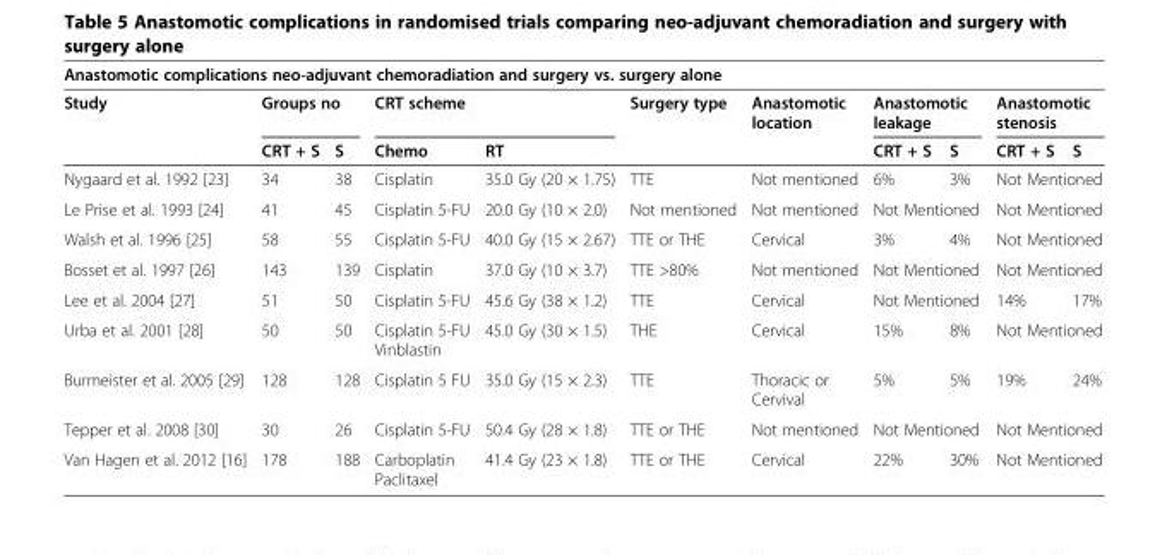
<table><thead><tr><td colspan="11">Anastomotic complications neo-adjuvant chemoradiation and surgery vs. surgery alone</td></tr><tr><td rowspan="2">Study</td><td colspan="2">Groups no</td><td colspan="2">CRT scheme</td><td rowspan="2">Surgery type</td><td rowspan="2">Anastomotic location</td><td colspan="2">Anastomotic leakage</td><td colspan="2">Anastomotic stenosis</td></tr><tr><td>CRT + S</td><td>S</td><td>Chemo</td><td>RT</td><td>CRT + S</td><td>S</td><td>CRT + S</td><td>S</td></tr></thead><tbody><tr><td>Nygaard et al. 1992 [23]</td><td>34</td><td>38</td><td>Cisplatin</td><td>35.0 Gy (20 × 1.75)</td><td>TTE</td><td>Not mentioned</td><td>6%</td><td>3%</td><td colspan="2">Not Mentioned</td></tr><tr><td>Le Prise et al. 1993 [24]</td><td>41</td><td>45</td><td>Cisplatin 5-FU</td><td>20.0 Gy (10 × 2.0)</td><td>Not mentioned</td><td>Not mentioned</td><td colspan="2">Not Mentioned</td><td colspan="2">Not Mentioned</td></tr><tr><td>Walsh et al. 1996 [25]</td><td>58</td><td>55</td><td>Cisplatin 5-FU</td><td>40.0 Gy (15 × 2.67)</td><td>TTE or THE</td><td>Cervical</td><td>3%</td><td>4%</td><td colspan="2">Not Mentioned</td></tr><tr><td>Bosset et al. 1997 [26]</td><td>143</td><td>139</td><td>Cisplatin</td><td>37.0 Gy (10 × 3.7)</td><td>TTE &gt;80%</td><td>Not mentioned</td><td colspan="2">Not Mentioned</td><td colspan="2">Not Mentioned</td></tr><tr><td>Lee et al. 2004 [27]</td><td>51</td><td>50</td><td>Cisplatin 5-FU</td><td>45.6 Gy (38 × 1.2)</td><td>TTE</td><td>Cervical</td><td colspan="2">Not Mentioned</td><td>14%</td><td>17%</td></tr><tr><td>Urba et al. 2001 [28]</td><td>50</td><td>50</td><td>Cisplatin 5-FU Vinblastin</td><td>45.0 Gy (30 × 1.5)</td><td>THE</td><td>Cervical</td><td>15%</td><td>8%</td><td colspan="2">Not Mentioned</td></tr><tr><td>Burmeister et al. 2005 [29]</td><td>128</td><td>128</td><td>Cisplatin 5 FU</td><td>35.0 Gy (15 × 2.3)</td><td>TTE</td><td>Thoracic or Cervival</td><td>5%</td><td>5%</td><td>19%</td><td>24%</td></tr><tr><td>Tepper et al. 2008 [30]</td><td>30</td><td>26</td><td>Cisplatin 5-FU</td><td>50.4 Gy (28 × 1.8)</td><td>TTE or THE</td><td>Not mentioned</td><td colspan="2">Not Mentioned</td><td colspan="2">Not Mentioned</td></tr><tr><td>Van Hagen et al. 2012 [16]</td><td>178</td><td>188</td><td>Carboplatin Paclitaxel</td><td>41.4 Gy (23 × 1.8)</td><td>TTE or THE</td><td>Cervical</td><td>22%</td><td>30%</td><td colspan="2">Not Mentioned</td></tr></tbody></table>